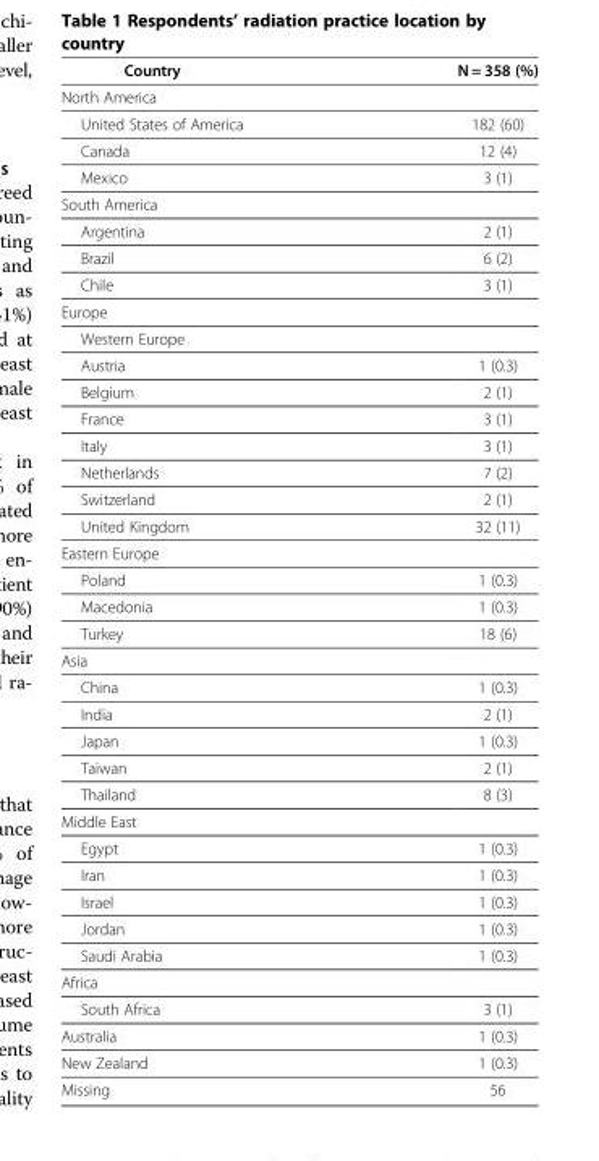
<table><thead><tr><td>Country</td><td>N = 358 (%)</td></tr></thead><tbody><tr><td colspan="2">North America</td></tr><tr><td>United States of America</td><td>182 (60)</td></tr><tr><td>Canada</td><td>12 (4)</td></tr><tr><td>Mexico</td><td>3 (1)</td></tr><tr><td colspan="2">South America</td></tr><tr><td>Argentina</td><td>2 (1)</td></tr><tr><td>Brazil</td><td>6 (2)</td></tr><tr><td>Chile</td><td>3 (1)</td></tr><tr><td colspan="2">Europe</td></tr><tr><td colspan="2">Western Europe</td></tr><tr><td>Austria</td><td>1 (0.3)</td></tr><tr><td>Belgium</td><td>2 (1)</td></tr><tr><td>France</td><td>3 (1)</td></tr><tr><td>Italy</td><td>3 (1)</td></tr><tr><td>Netherlands</td><td>7 (2)</td></tr><tr><td>Switzerland</td><td>2 (1)</td></tr><tr><td>United Kingdom</td><td>32 (11)</td></tr><tr><td colspan="2">Eastern Europe</td></tr><tr><td>Poland</td><td>1 (0.3)</td></tr><tr><td>Macedonia</td><td>1 (0.3)</td></tr><tr><td>Turkey</td><td>18 (6)</td></tr><tr><td colspan="2">Asia</td></tr><tr><td>China</td><td>1 (0.3)</td></tr><tr><td>India</td><td>2 (1)</td></tr><tr><td>Japan</td><td>1 (0.3)</td></tr><tr><td>Taiwan</td><td>2 (1)</td></tr><tr><td>Thailand</td><td>8 (3)</td></tr><tr><td colspan="2">Middle East</td></tr><tr><td>Egypt</td><td>1 (0.3)</td></tr><tr><td>Iran</td><td>1 (0.3)</td></tr><tr><td>Israel</td><td>1 (0.3)</td></tr><tr><td>Jordan</td><td>1 (0.3)</td></tr><tr><td>Saudi Arabia</td><td>1 (0.3)</td></tr><tr><td colspan="2">Africa</td></tr><tr><td>South Africa</td><td>3 (1)</td></tr><tr><td>Australia</td><td>1 (0.3)</td></tr><tr><td>New Zealand</td><td>1 (0.3)</td></tr><tr><td>Missing</td><td>56</td></tr></tbody></table>